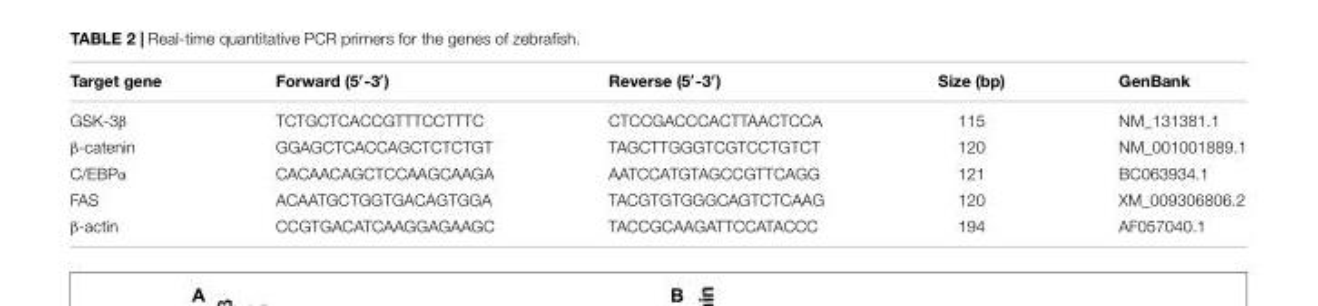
<table><thead><tr><td>Target gene</td><td>Forward (5′-3′)</td><td>Reverse (5′-3′)</td><td>Size (bp)</td><td>GenBank</td></tr></thead><tbody><tr><td>GSK-3β</td><td>TCTGCTCACCGTTTCCTTTC</td><td>CTCCGACCCACTTAACTCCA</td><td>115</td><td>NM_131381.1</td></tr><tr><td>β-catenin</td><td>GGAGCTCACCAGCTCTCTGT</td><td>TAGCTTGGGTCGTCCTGTCT</td><td>120</td><td>NM_001001889.1</td></tr><tr><td>C/EBPα</td><td>CACAACAGCTCCAAGCAAGA</td><td>AATCCATGTAGCCGTTCAGG</td><td>121</td><td>BC063934.1</td></tr><tr><td>FAS</td><td>ACAATGCTGGTGACAGTGGA</td><td>TACGTGTGGGCAGTCTCAAG</td><td>120</td><td>XM_009306806.2</td></tr><tr><td>β-actin</td><td>CCGTGACATCAAGGAGAAGC</td><td>TACCGCAAGATTCCATACCC</td><td>194</td><td>AF057040.1</td></tr></tbody></table>